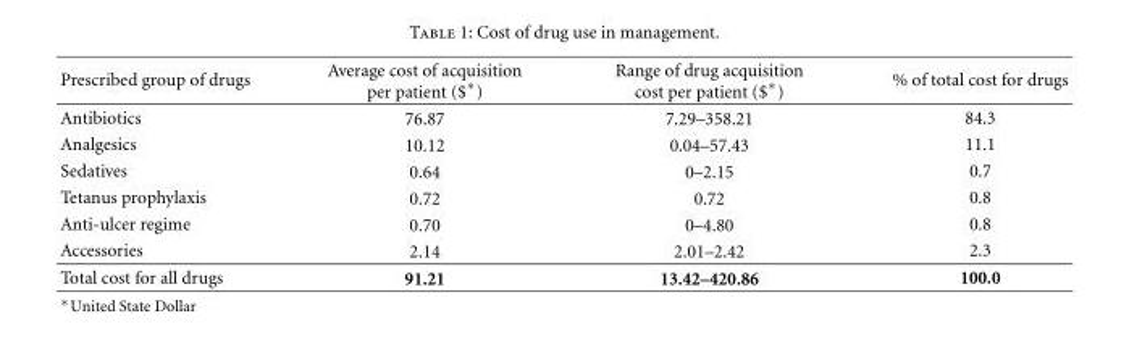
<table><thead><tr><td>Prescribed group of drugs</td><td>Average cost of acquisition per patient ($∗)</td><td>Range of drug acquisition cost per patient ($∗)</td><td>% of total cost for drugs</td></tr></thead><tbody><tr><td>Antibiotics</td><td>76.87</td><td>7.29–358.21</td><td>84.3</td></tr><tr><td>Analgesics</td><td>10.12</td><td>0.04–57.43</td><td>11.1</td></tr><tr><td>Sedatives</td><td>0.64</td><td>0–2.15</td><td>0.7</td></tr><tr><td>Tetanus prophylaxis</td><td>0.72</td><td>0.72</td><td>0.8</td></tr><tr><td>Anti-ulcer regime</td><td>0.70</td><td>0–4.80</td><td>0.8</td></tr><tr><td>Accessories</td><td>2.14</td><td>2.01–2.42</td><td>2.3</td></tr><tr><td>Total cost for all drugs</td><td>91.21</td><td>13.42–420.86</td><td>100.0</td></tr></tbody></table>